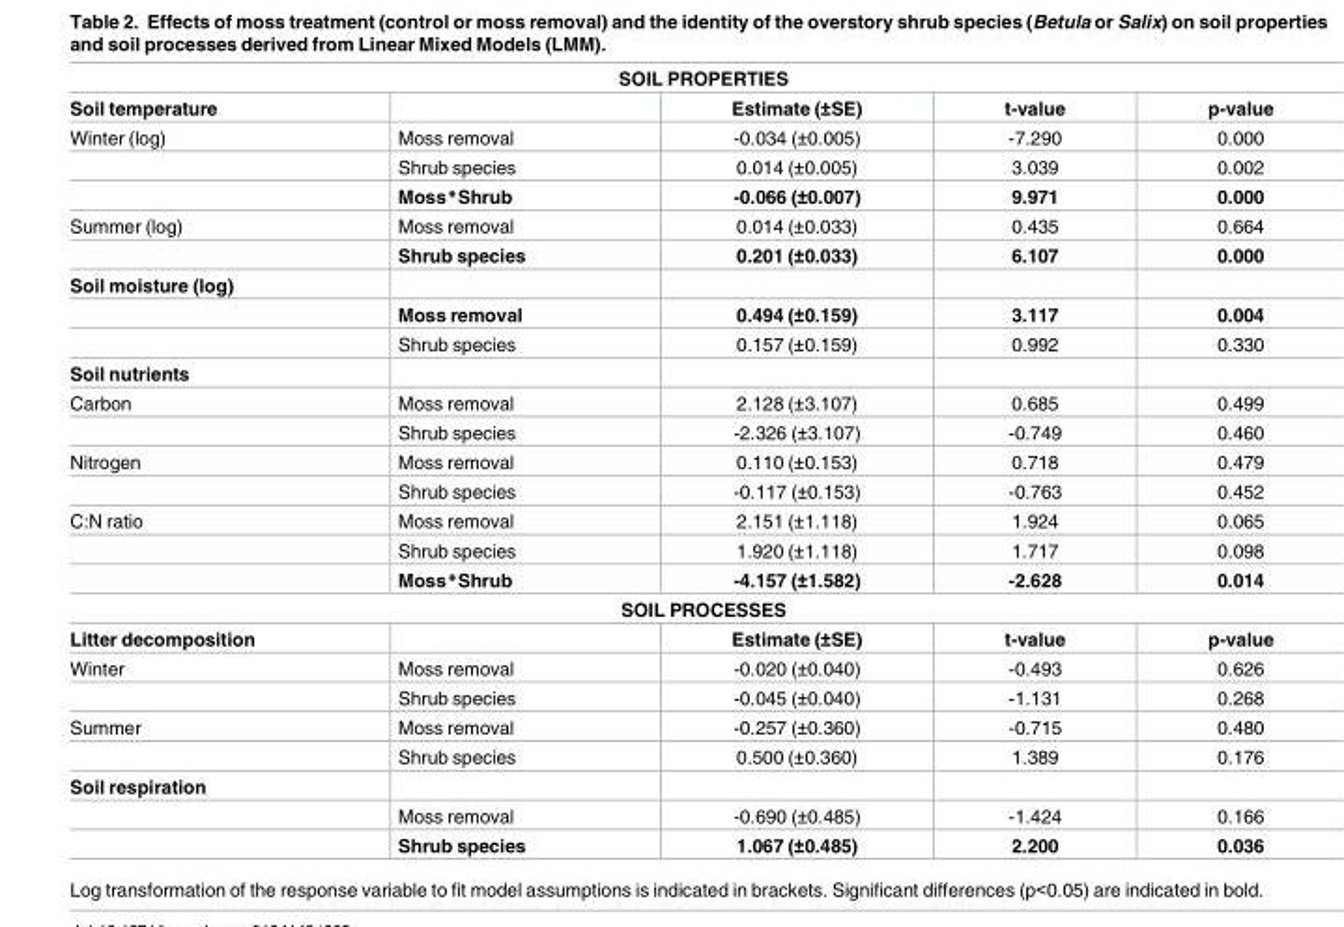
<table><tbody><tr><td colspan="5">SOIL PROPERTIES</td></tr><tr><td>Soil temperature</td><td></td><td>Estimate (±SE)</td><td>t-value</td><td>p-value</td></tr><tr><td rowspan="3">Winter (log)</td><td>Moss removal</td><td>-0.034 (±0.005)</td><td>-7.290</td><td>0.000</td></tr><tr><td>Shrub species</td><td>0.014 (±0.005)</td><td>3.039</td><td>0.002</td></tr><tr><td>Moss*Shrub</td><td>-0.066 (±0.007)</td><td>9.971</td><td>0.000</td></tr><tr><td rowspan="2">Summer (log)</td><td>Moss removal</td><td>0.014 (±0.033)</td><td>0.435</td><td>0.664</td></tr><tr><td>Shrub species</td><td>0.201 (±0.033)</td><td>6.107</td><td>0.000</td></tr><tr><td colspan="5">Soil moisture (log)</td></tr><tr><td></td><td>Moss removal</td><td>0.494 (±0.159)</td><td>3.117</td><td>0.004</td></tr><tr><td></td><td>Shrub species</td><td>0.157 (±0.159)</td><td>0.992</td><td>0.330</td></tr><tr><td colspan="5">Soil nutrients</td></tr><tr><td rowspan="2">Carbon</td><td>Moss removal</td><td>2.128 (±3.107)</td><td>0.685</td><td>0.499</td></tr><tr><td>Shrub species</td><td>-2.326 (±3.107)</td><td>-0.749</td><td>0.460</td></tr><tr><td rowspan="2">Nitrogen</td><td>Moss removal</td><td>0.110 (±0.153)</td><td>0.718</td><td>0.479</td></tr><tr><td>Shrub species</td><td>-0.117 (±0.153)</td><td>-0.763</td><td>0.452</td></tr><tr><td rowspan="3">C:N ratio</td><td>Moss removal</td><td>2.151 (±1.118)</td><td>1.924</td><td>0.065</td></tr><tr><td>Shrub species</td><td>1.920 (±1.118)</td><td>1.717</td><td>0.098</td></tr><tr><td>Moss*Shrub</td><td>-4.157 (±1.582)</td><td>-2.628</td><td>0.014</td></tr><tr><td colspan="5">SOIL PROCESSES</td></tr><tr><td>Litter decomposition</td><td></td><td>Estimate (±SE)</td><td>t-value</td><td>p-value</td></tr><tr><td rowspan="2">Winter</td><td>Moss removal</td><td>-0.020 (±0.040)</td><td>-0.493</td><td>0.626</td></tr><tr><td>Shrub species</td><td>-0.045 (±0.040)</td><td>-1.131</td><td>0.268</td></tr><tr><td rowspan="2">Summer</td><td>Moss removal</td><td>-0.257 (±0.360)</td><td>-0.715</td><td>0.480</td></tr><tr><td>Shrub species</td><td>0.500 (±0.360)</td><td>1.389</td><td>0.176</td></tr><tr><td colspan="5">Soil respiration</td></tr><tr><td></td><td>Moss removal</td><td>-0.690 (±0.485)</td><td>-1.424</td><td>0.166</td></tr><tr><td></td><td>Shrub species</td><td>1.067 (±0.485)</td><td>2.200</td><td>0.036</td></tr></tbody></table>